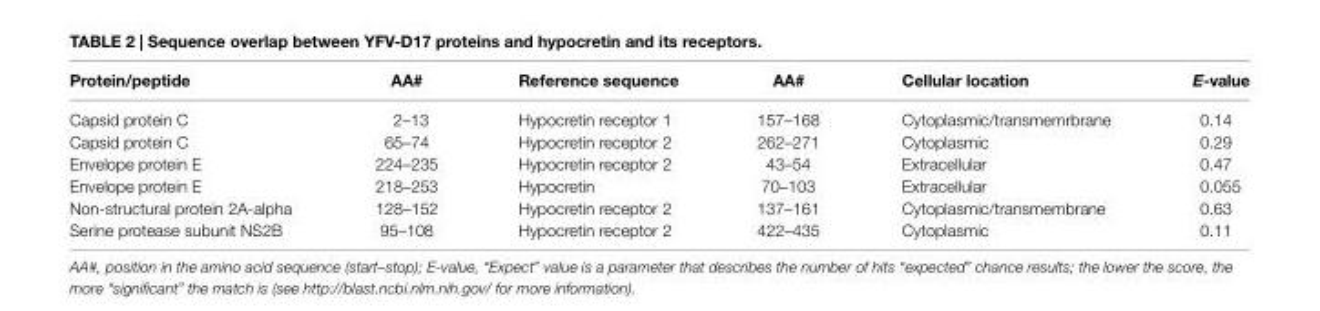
<table><thead><tr><td>protein/peptide</td><td>aa#</td><td>Reference sequence</td><td>aa#</td><td>Cellular location</td><td>E-value</td></tr></thead><tbody><tr><td>Capsid protein C</td><td>2–13</td><td>Hypocretin receptor 1</td><td>157–168</td><td>Cytoplasmic/transmemrbrane</td><td>0.14</td></tr><tr><td>Capsid protein C</td><td>65–74</td><td>Hypocretin receptor 2</td><td>262–271</td><td>Cytoplasmic</td><td>0.29</td></tr><tr><td>Envelope protein E</td><td>224–235</td><td>Hypocretin receptor 2</td><td>43–54</td><td>Extracellular</td><td>0.47</td></tr><tr><td>Envelope protein E</td><td>218–253</td><td>Hypocretin</td><td>70–103</td><td>Extracellular</td><td>0.055</td></tr><tr><td>Non-structural protein 2A-alpha</td><td>128–152</td><td>Hypocretin receptor 2</td><td>137–161</td><td>Cytoplasmic/transmembrane</td><td>0.63</td></tr><tr><td>Serine protease subunit NS2B</td><td>95–108</td><td>Hypocretin receptor 2</td><td>422–435</td><td>Cytoplasmic</td><td>0.11</td></tr></tbody></table>